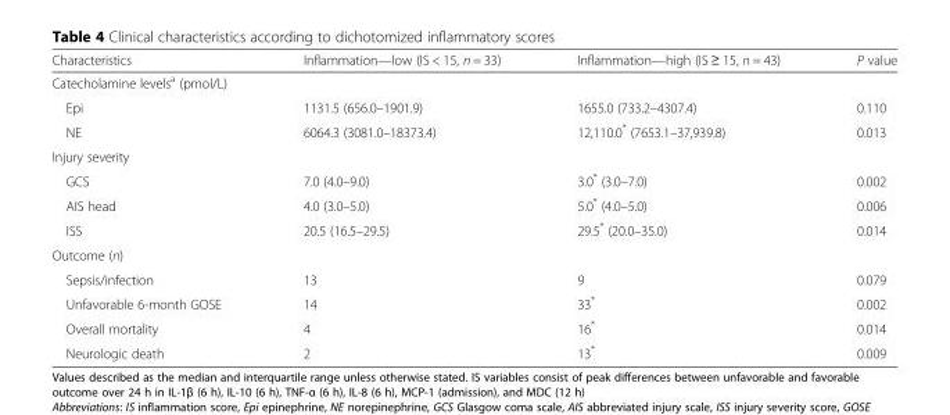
<table><thead><tr><td>Characteristics</td><td>Inflammation—low (IS &lt; 15, n = 33)</td><td>Inflammation—high (IS ≥ 15, n = 43)</td><td>P value</td></tr></thead><tbody><tr><td colspan="4">Catecholamine levels<sup>a</sup> (pmol/L)</td></tr><tr><td>Epi</td><td>1131.5 (656.0–1901.9)</td><td>1655.0 (733.2–4307.4)</td><td>0.110</td></tr><tr><td>NE</td><td>6064.3 (3081.0–18373.4)</td><td>12,110.0* (7653.1–37,939.8)</td><td>0.013</td></tr><tr><td colspan="4">Injury severity</td></tr><tr><td>GCS</td><td>7.0 (4.0–9.0)</td><td>3.0* (3.0–7.0)</td><td>0.002</td></tr><tr><td>AIS head</td><td>4.0 (3.0–5.0)</td><td>5.0* (4.0–5.0)</td><td>0.006</td></tr><tr><td>ISS</td><td>20.5 (16.5–29.5)</td><td>29.5* (20.0–35.0)</td><td>0.014</td></tr><tr><td colspan="4">Outcome (n)</td></tr><tr><td>Sepsis/infection</td><td>13</td><td>9</td><td>0.079</td></tr><tr><td>Unfavorable 6-month GOSE</td><td>14</td><td>33*</td><td>0.002</td></tr><tr><td>Overall mortality</td><td>4</td><td>16*</td><td>0.014</td></tr><tr><td>Neurologic death</td><td>2</td><td>13*</td><td>0.009</td></tr></tbody></table>